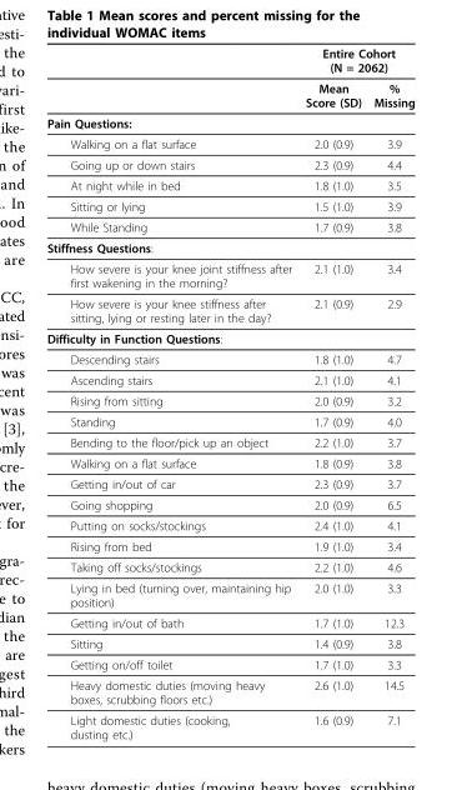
<table><thead><tr><td rowspan="2"></td><td colspan="2">Entire Cohort (N = 2062)</td></tr><tr><td>Mean Score (SD)</td><td>% Missing</td></tr></thead><tbody><tr><td colspan="3">Pain Questions:</td></tr><tr><td>Walking on a flat surface</td><td>2.0 (0.9)</td><td>3.9</td></tr><tr><td>Going up or down stairs</td><td>2.3 (0.9)</td><td>4.4</td></tr><tr><td>At night while in bed</td><td>1.8 (1.0)</td><td>3.5</td></tr><tr><td>Sitting or lying</td><td>1.5 (1.0)</td><td>3.9</td></tr><tr><td>While Standing</td><td>1.7 (0.9)</td><td>3.8</td></tr><tr><td colspan="3">Stiffness Questions:</td></tr><tr><td>How severe is your knee joint stiffness after first wakening in the morning?</td><td>2.1 (1.0)</td><td>3.4</td></tr><tr><td>How severe is your knee stiffness after sitting, lying or resting later in the day?</td><td>2.1 (0.9)</td><td>2.9</td></tr><tr><td colspan="3">Difficulty in Function Questions:</td></tr><tr><td>Descending stairs</td><td>1.8 (1.0)</td><td>4.7</td></tr><tr><td>Ascending stairs</td><td>2.1 (1.0)</td><td>4.1</td></tr><tr><td>Rising from sitting</td><td>2.0 (0.9)</td><td>3.2</td></tr><tr><td>Standing</td><td>1.7 (0.9)</td><td>4.0</td></tr><tr><td>Bending to the floor/pick up an object</td><td>2.2 (1.0)</td><td>3.7</td></tr><tr><td>Walking on a flat surface</td><td>1.8 (0.9)</td><td>3.8</td></tr><tr><td>Getting in/out of car</td><td>2.3 (0.9)</td><td>3.7</td></tr><tr><td>Going shopping</td><td>2.0 (0.9)</td><td>6.5</td></tr><tr><td>Putting on socks/stockings</td><td>2.4 (1.0)</td><td>4.1</td></tr><tr><td>Rising from bed</td><td>1.9 (1.0)</td><td>3.4</td></tr><tr><td>Taking off socks/stockings</td><td>2.2 (1.0)</td><td>4.6</td></tr><tr><td>Lying in bed (turning over, maintaining hip position)</td><td>2.0 (1.0)</td><td>3.3</td></tr><tr><td>Getting in/out of bath</td><td>1.7 (1.0)</td><td>12.3</td></tr><tr><td>Sitting</td><td>1.4 (0.9)</td><td>3.8</td></tr><tr><td>Getting on/off toilet</td><td>1.7 (1.0)</td><td>3.3</td></tr><tr><td>Heavy domestic duties (moving heavy boxes, scrubbing floors etc.)</td><td>2.6 (1.0)</td><td>14.5</td></tr><tr><td>Light domestic duties (cooking, dusting etc.)</td><td>1.6 (0.9)</td><td>7.1</td></tr></tbody></table>